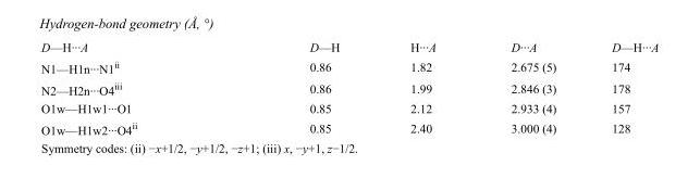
<table><tbody><tr><td>D—H···A</td><td>D—H</td><td>H···A</td><td>D···A</td><td>D—H···A</td></tr><tr><td>N1—H1n···N1<sup>ii</sup></td><td>0.86</td><td>1.82</td><td>2.675 (5)</td><td>174</td></tr><tr><td>N2—H2n···O4<sup>iii</sup></td><td>0.86</td><td>1.99</td><td>2.846 (3)</td><td>178</td></tr><tr><td>O1w—H1w1···O1</td><td>0.85</td><td>2.12</td><td>2.933 (4)</td><td>157</td></tr><tr><td>O1w—H1w2···O4<sup>ii</sup></td><td>0.85</td><td>2.40</td><td>3.000 (4)</td><td>128</td></tr></tbody></table>